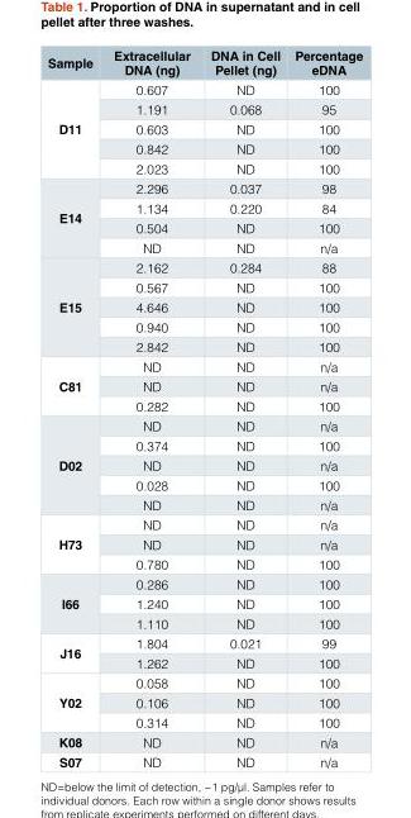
<table><thead><tr><td>Sample</td><td>Extracellular DNA (ng)</td><td>DNA in Cell Pellet (ng)</td><td>Percentage eDNA</td></tr></thead><tbody><tr><td rowspan="5">D11</td><td>0.607</td><td>ND</td><td>100</td></tr><tr><td>1.191</td><td>0.068</td><td>95</td></tr><tr><td>0.603</td><td>ND</td><td>100</td></tr><tr><td>0.842</td><td>ND</td><td>100</td></tr><tr><td>2.023</td><td>ND</td><td>100</td></tr><tr><td rowspan="4">E14</td><td>2.296</td><td>0.037</td><td>98</td></tr><tr><td>1.134</td><td>0.220</td><td>84</td></tr><tr><td>0.504</td><td>ND</td><td>100</td></tr><tr><td>ND</td><td>ND</td><td>n/a</td></tr><tr><td rowspan="5">E15</td><td>2.162</td><td>0.284</td><td>88</td></tr><tr><td>0.567</td><td>ND</td><td>100</td></tr><tr><td>4.646</td><td>ND</td><td>100</td></tr><tr><td>0.940</td><td>ND</td><td>100</td></tr><tr><td>2.842</td><td>ND</td><td>100</td></tr><tr><td rowspan="3">C81</td><td>ND</td><td>ND</td><td>n/a</td></tr><tr><td>ND</td><td>ND</td><td>n/a</td></tr><tr><td>0.282</td><td>ND</td><td>100</td></tr><tr><td rowspan="5">D02</td><td>ND</td><td>ND</td><td>n/a</td></tr><tr><td>0.374</td><td>ND</td><td>100</td></tr><tr><td>ND</td><td>ND</td><td>n/a</td></tr><tr><td>0.028</td><td>ND</td><td>100</td></tr><tr><td>ND</td><td>ND</td><td>n/a</td></tr><tr><td rowspan="3">H73</td><td>ND</td><td>ND</td><td>n/a</td></tr><tr><td>ND</td><td>ND</td><td>n/a</td></tr><tr><td>0.780</td><td>ND</td><td>100</td></tr><tr><td rowspan="3">I66</td><td>0.286</td><td>ND</td><td>100</td></tr><tr><td>1.240</td><td>ND</td><td>100</td></tr><tr><td>1.110</td><td>ND</td><td>100</td></tr><tr><td rowspan="2">J16</td><td>1.804</td><td>0.021</td><td>99</td></tr><tr><td>1.262</td><td>ND</td><td>100</td></tr><tr><td rowspan="3">Y02</td><td>0.058</td><td>ND</td><td>100</td></tr><tr><td>0.106</td><td>ND</td><td>100</td></tr><tr><td>0.314</td><td>ND</td><td>100</td></tr><tr><td>K08</td><td>ND</td><td>ND</td><td>n/a</td></tr><tr><td>S07</td><td>ND</td><td>ND</td><td>n/a</td></tr></tbody></table>